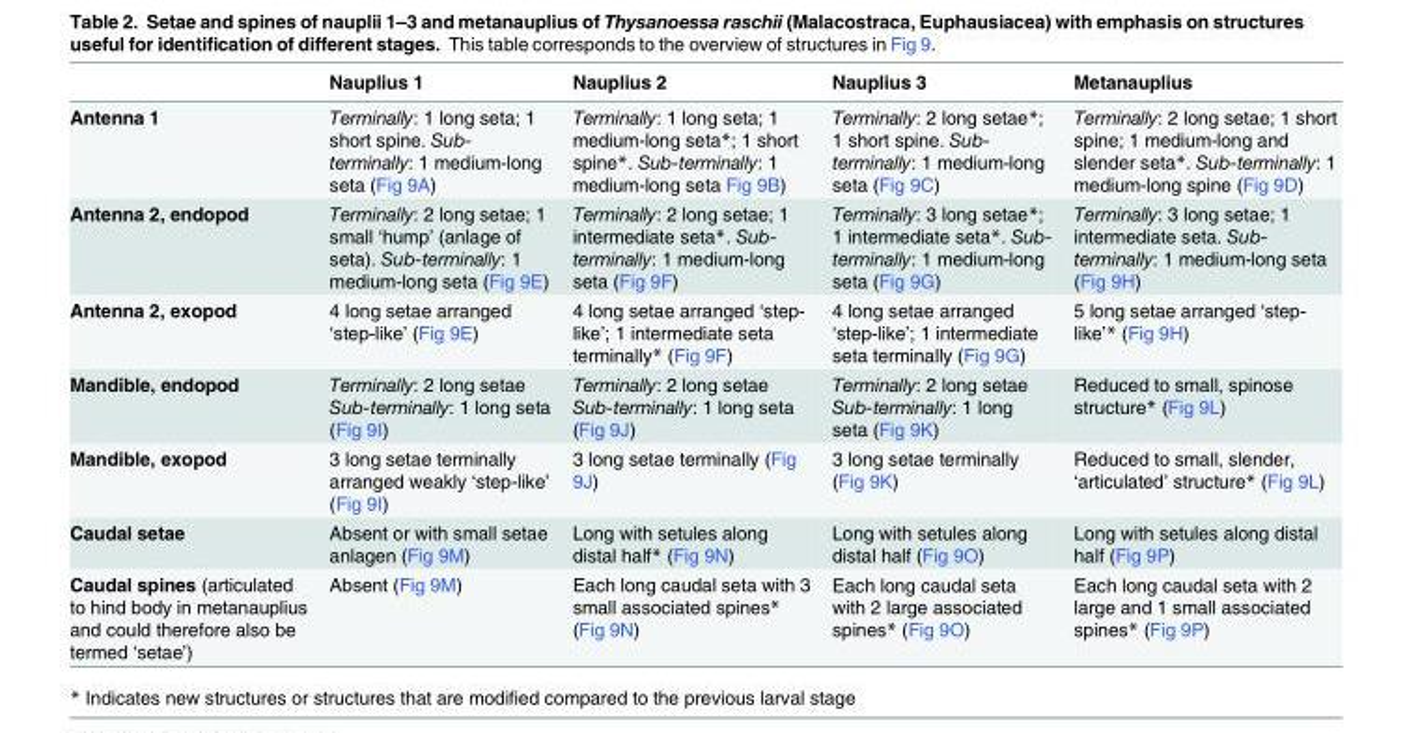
<table><thead><tr><td></td><td>Nauplius 1</td><td>Nauplius 2</td><td>Nauplius 3</td><td>Metanauplius</td></tr></thead><tbody><tr><td>Antenna 1</td><td>Terminally: 1 long seta; 1 short spine. Sub- terminally: 1 medium-long seta (Fig 9A)</td><td>Terminally: 1 long seta; 1 medium-long seta*; 1 short spine*. Sub-terminally: 1 medium-long seta Fig 9B)</td><td>Terminally: 2 long setae*; 1 short spine. Sub- terminally: 1 medium-long seta (Fig 9C)</td><td>Terminally: 2 long setae; 1 short spine; 1 medium-long and slender seta*. Sub-terminally: 1 medium-long spine (Fig 9D)</td></tr><tr><td>Antenna 2, endopod</td><td>Terminally: 2 long setae; 1 small ‘hump’ (anlage of seta). Sub-terminally: 1 medium-long seta (Fig 9E)</td><td>Terminally: 2 long setae; 1 intermediate seta*. Sub- terminally: 1 medium-long seta (Fig 9F)</td><td>Terminally: 3 long setae*; 1 intermediate seta*. Sub- terminally: 1 medium-long seta (Fig 9G)</td><td>Terminally: 3 long setae; 1 intermediate seta. Sub- terminally: 1 medium-long seta (Fig 9H)</td></tr><tr><td>Antenna 2, exopod</td><td>4 long setae arranged ‘step-like’ (Fig 9E)</td><td>4 long setae arranged ‘step- like’; 1 intermediate seta terminally* (Fig 9F)</td><td>4 long setae arranged ‘step-like’; 1 intermediate seta terminally (Fig 9G)</td><td>5 long setae arranged ‘step- like’* (Fig 9H)</td></tr><tr><td>Mandible, endopod</td><td>Terminally: 2 long setae Sub-terminally: 1 long seta (Fig 9I)</td><td>Terminally: 2 long setae Sub-terminally: 1 long seta (Fig 9J)</td><td>Terminally: 2 long setae Sub-terminally: 1 long seta (Fig 9K)</td><td>Reduced to small, spinose structure* (Fig 9L)</td></tr><tr><td>Mandible, exopod</td><td>3 long setae terminally arranged weakly ‘step-like’ (Fig 9I)</td><td>3 long setae terminally (Fig 9J)</td><td>3 long setae terminally (Fig 9K)</td><td>Reduced to small, slender, ‘articulated’ structure* (Fig 9L)</td></tr><tr><td>Caudal setae</td><td>Absent or with small setae anlagen (Fig 9M)</td><td>Long with setules along distal half* (Fig 9N)</td><td>Long with setules along distal half (Fig 9O)</td><td>Long with setules along distal half (Fig 9P)</td></tr><tr><td>Caudal spines (articulated to hind body in metanauplius and could therefore also be termed ‘setae’)</td><td>Absent (Fig 9M)</td><td>Each long caudal seta with 3 small associated spines* (Fig 9N)</td><td>Each long caudal seta with 2 large associated spines* (Fig 9O)</td><td>Each long caudal seta with 2 large and 1 small associated spines* (Fig 9P)</td></tr></tbody></table>